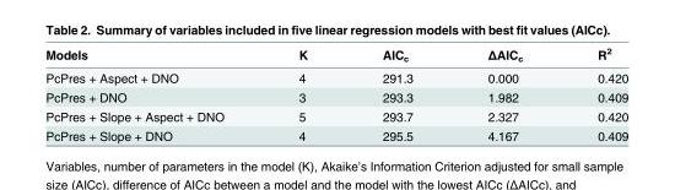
<table><thead><tr><td>Models</td><td>K</td><td>AIC<sub>c</sub></td><td>ΔAIC<sub>c</sub></td><td>R<sup>2</sup></td></tr></thead><tbody><tr><td>PcPres + Aspect + DNO</td><td>4</td><td>291.3</td><td>0.000</td><td>0.420</td></tr><tr><td>PcPres + DNO</td><td>3</td><td>293.3</td><td>1.982</td><td>0.409</td></tr><tr><td>PcPres + Slope + Aspect + DNO</td><td>5</td><td>293.7</td><td>2.327</td><td>0.420</td></tr><tr><td>PcPres + Slope + DNO</td><td>4</td><td>295.5</td><td>4.167</td><td>0.409</td></tr></tbody></table>